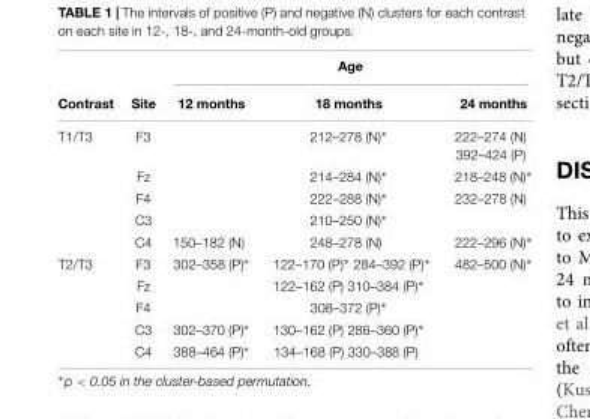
<table><thead><tr><td rowspan="2">Contrast</td><td rowspan="2">Site</td><td colspan="3">Age</td></tr><tr><td>12 months</td><td>18 months</td><td>24 months</td></tr></thead><tbody><tr><td rowspan="5">T1/T3</td><td>F3</td><td></td><td>212–278 (N)∗</td><td>222–274 (N) 392–424 (P)</td></tr><tr><td>Fz</td><td></td><td>214–284 (N)∗</td><td>218–248 (N)∗</td></tr><tr><td>F4</td><td></td><td>222–288 (N)∗</td><td>232–278 (N)</td></tr><tr><td>C3</td><td></td><td>210–250 (N)∗</td><td></td></tr><tr><td>C4</td><td>150–182 (N)</td><td>248–278 (N)</td><td>222–296 (N)∗</td></tr><tr><td rowspan="5">T2/T3</td><td>F3</td><td>302–358 (P)∗</td><td>122–170 (P)∗ 284–392 (P)∗</td><td>482–500 (N)∗</td></tr><tr><td>Fz</td><td></td><td>122–162 (P) 310–384 (P)∗</td><td></td></tr><tr><td>F4</td><td></td><td>308–372 (P)∗</td><td></td></tr><tr><td>C3</td><td>302–370 (P)∗</td><td>130–162 (P) 286–360 (P)∗</td><td></td></tr><tr><td>C4</td><td>388–464 (P)∗</td><td>134–168 (P) 330–388 (P)</td><td></td></tr></tbody></table>